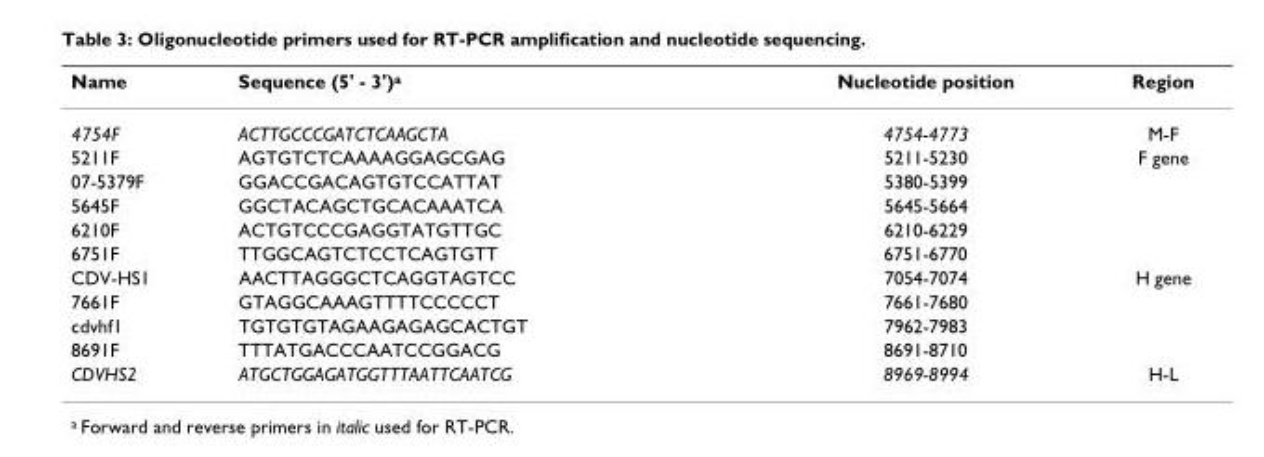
<table><tbody><tr><td>Name</td><td>Sequence (5&#x27; - 3&#x27;)<sup>a</sup></td><td>Nucleotide position</td><td>Region</td></tr><tr><td>4754F</td><td>ACTTGCCCGATCTCAAGCTA</td><td>4754-4773</td><td>M-F</td></tr><tr><td>5211F</td><td>AGTGTCTCAAAAGGAGCGAG</td><td>5211-5230</td><td>F gene</td></tr><tr><td>07-5379F</td><td>GGACCGACAGTGTCCATTAT</td><td>5380-5399</td><td></td></tr><tr><td>5645F</td><td>GGCTACAGCTGCACAAATCA</td><td>5645-5664</td><td></td></tr><tr><td>6210F</td><td>ACTGTCCCGAGGTATGTTGC</td><td>6210-6229</td><td></td></tr><tr><td>6751F</td><td>TTGGCAGTCTCCTCAGTGTT</td><td>6751-6770</td><td></td></tr><tr><td>CDV-HS1</td><td>AACTTAGGGCTCAGGTAGTCC</td><td>7054-7074</td><td>H gene</td></tr><tr><td>7661F</td><td>GTAGGCAAAGTTTTCCCCCT</td><td>7661-7680</td><td></td></tr><tr><td>cdvhf1</td><td>TGTGTGTAGAAGAGAGCACTGT</td><td>7962-7983</td><td></td></tr><tr><td>8691F</td><td>TTTATGACCCAATCCGGACG</td><td>8691-8710</td><td></td></tr><tr><td>CDVHS2</td><td>ATGCTGGAGATGGTTTAATTCAATCG</td><td>8969-8994</td><td>H-L</td></tr></tbody></table>